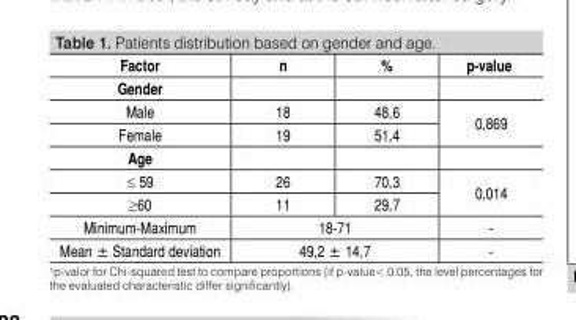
<table><tbody><tr><td>Factor</td><td>n</td><td>%</td><td>p-value¹</td></tr><tr><td colspan="4">Gender</td></tr><tr><td>Male</td><td>18</td><td>48,6</td><td rowspan="2">0,869</td></tr><tr><td>Female</td><td>19</td><td>51,4</td></tr><tr><td colspan="4">Age</td></tr><tr><td>≤ 59</td><td>26</td><td>70,3</td><td rowspan="2">0,014</td></tr><tr><td>≥60</td><td>11</td><td>29,7</td></tr><tr><td>Minimum-Maximum</td><td colspan="2">18-71</td><td>-</td></tr><tr><td>Mean ± Standard deviation</td><td colspan="2">49,2 ± 14,7</td><td>-</td></tr></tbody></table>